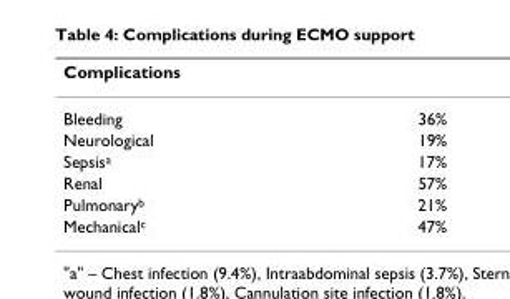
<table><thead><tr><td colspan="2">Complications</td></tr><tr><td>Bleeding</td><td>36%</td></tr></thead><tbody><tr><td>Neurological</td><td>19%</td></tr><tr><td>Sepsis<sup>a</sup></td><td>17%</td></tr><tr><td>Renal</td><td>57%</td></tr><tr><td>Pulmonary<sup>b</sup></td><td>21%</td></tr><tr><td>Mechanical<sup>c</sup></td><td>47%</td></tr></tbody></table>